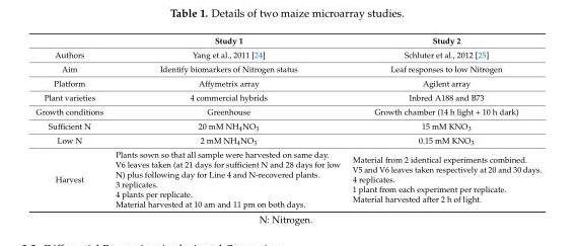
<table><thead><tr><td></td><td>Study 1</td><td>Study 2</td></tr></thead><tbody><tr><td>Authors</td><td>Yang et al., 2011 [24]</td><td>Schluter et al., 2012 [25]</td></tr><tr><td>Aim</td><td>Identify biomarkers of Nitrogen status</td><td>Leaf responses to low Nitrogen</td></tr><tr><td>Platform</td><td>Affymetrix array</td><td>Agilent array</td></tr><tr><td>Plant varieties</td><td>4 commercial hybrids</td><td>Inbred A188 and B73</td></tr><tr><td>Growth conditions</td><td>Greenhouse</td><td>Growth chamber (14 h light + 10 h dark)</td></tr><tr><td>Sufficient N</td><td>20 mM NH<sub>4</sub>NO<sub>3</sub></td><td>15 mM KNO<sub>3</sub></td></tr><tr><td>Low N</td><td>2 mM NH<sub>4</sub>NO<sub>3</sub></td><td>0.15 mM KNO<sub>3</sub></td></tr><tr><td>Harvest</td><td>Plants sown so that all sample were harvested on same day. V6 leaves taken (at 21 days for sufficient N and 28 days for low N) plus following day for Line 4 and N-recovered plants. 3 replicates. 4 plants per replicate. Material harvested at 10 am and 11 pm on both days.</td><td>Material from 2 identical experiments combined. V5 and V6 leaves taken respectively at 20 and 30 days. 4 replicates. 1 plant from each experiment per replicate. Material harvested after 2 h of light.</td></tr></tbody></table>